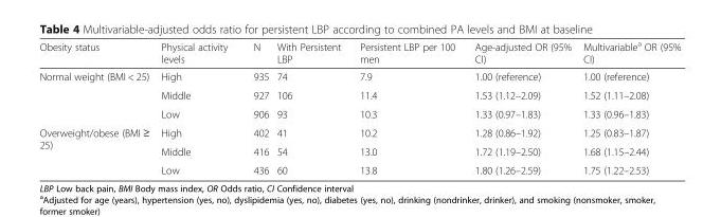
<table><thead><tr><td>Obesity status</td><td>Physical activity levels</td><td>N</td><td>With Persistent LBP</td><td>Persistent LBP per 100 men</td><td>Age-adjusted OR (95% CI)</td><td>Multivariable<sup>a</sup> OR (95% CI)</td></tr></thead><tbody><tr><td rowspan="3">Normal weight (BMI &lt; 25)</td><td>High</td><td>935</td><td>74</td><td>7.9</td><td>1.00 (reference)</td><td>1.00 (reference)</td></tr><tr><td>Middle</td><td>927</td><td>106</td><td>11.4</td><td>1.53 (1.12–2.09)</td><td>1.52 (1.11–2.08)</td></tr><tr><td>Low</td><td>906</td><td>93</td><td>10.3</td><td>1.33 (0.97–1.83)</td><td>1.33 (0.96–1.83)</td></tr><tr><td rowspan="3">Overweight/obese (BMI ≥ 25)</td><td>High</td><td>402</td><td>41</td><td>10.2</td><td>1.28 (0.86–1.92)</td><td>1.25 (0.83–1.87)</td></tr><tr><td>Middle</td><td>416</td><td>54</td><td>13.0</td><td>1.72 (1.19–2.50)</td><td>1.68 (1.15–2.44)</td></tr><tr><td>Low</td><td>436</td><td>60</td><td>13.8</td><td>1.80 (1.26–2.59)</td><td>1.75 (1.22–2.53)</td></tr></tbody></table>